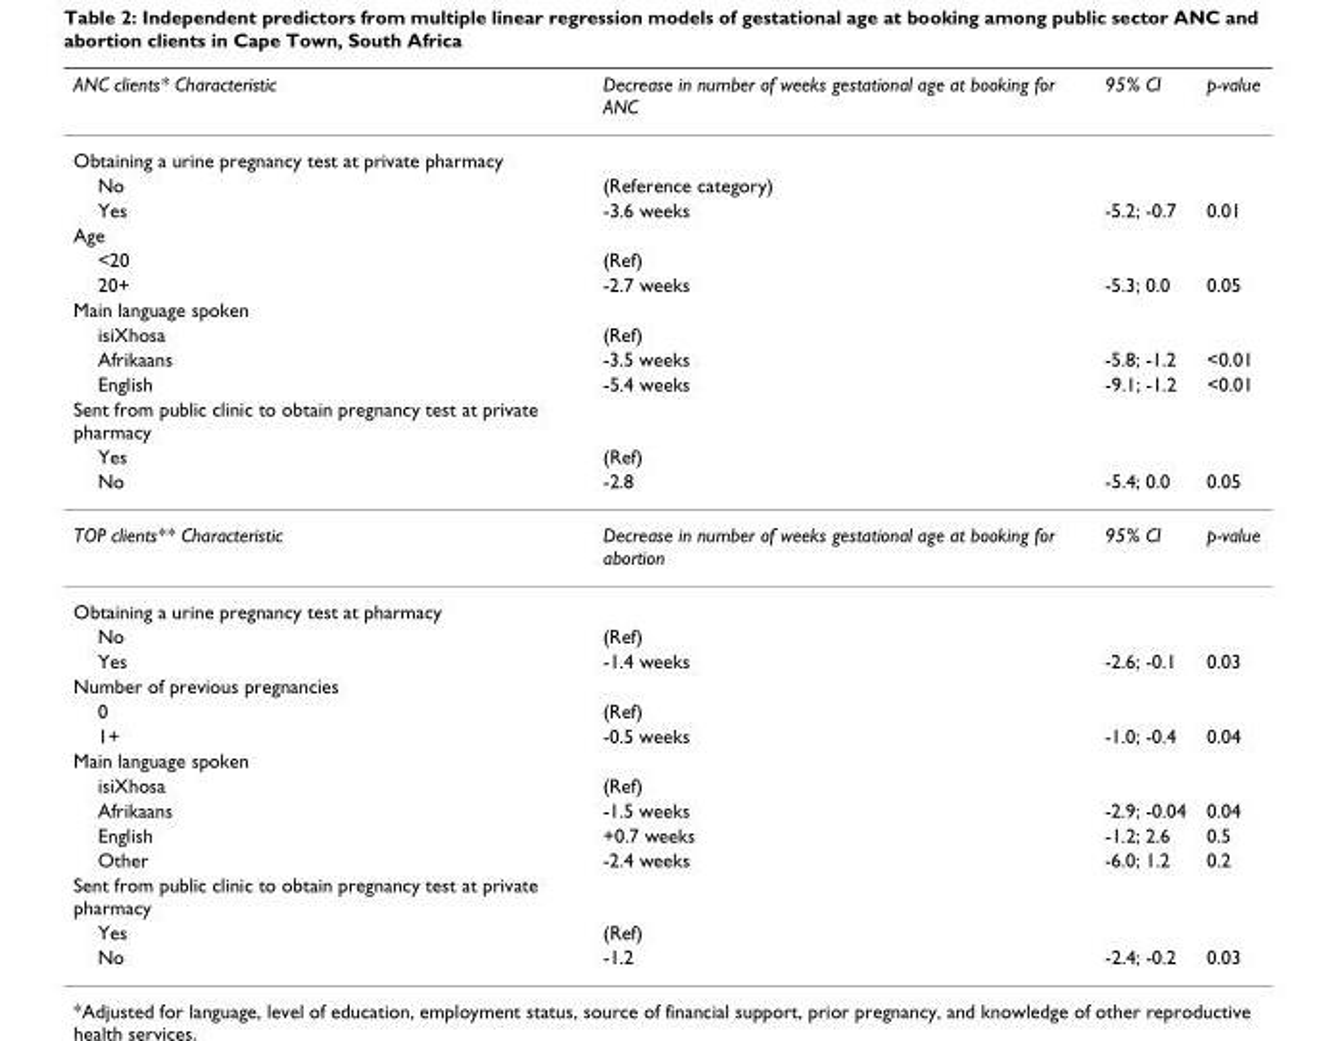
<table><thead><tr><td>ANC clients* Characteristic</td><td>Decrease in number of weeks gestational age at booking for ANC</td><td>95% CI</td><td>p-value</td></tr></thead><tbody><tr><td colspan="4">Obtaining a urine pregnancy test at private pharmacy</td></tr><tr><td>No</td><td>(Reference category)</td><td></td><td></td></tr><tr><td>Yes</td><td>-3.6 weeks</td><td>-5.2; -0.7</td><td>0.01</td></tr><tr><td colspan="4">Age</td></tr><tr><td>&lt;20</td><td>(Ref)</td><td></td><td></td></tr><tr><td>20+</td><td>-2.7 weeks</td><td>-5.3; 0.0</td><td>0.05</td></tr><tr><td colspan="4">Main language spoken</td></tr><tr><td>isiXhosa</td><td>(Ref)</td><td></td><td></td></tr><tr><td>Afrikaans</td><td>-3.5 weeks</td><td>-5.8; -1.2</td><td>&lt;0.01</td></tr><tr><td>English</td><td>-5.4 weeks</td><td>-9.1; -1.2</td><td>&lt;0.01</td></tr><tr><td colspan="4">Sent from public clinic to obtain pregnancy test at private pharmacy</td></tr><tr><td>Yes</td><td>(Ref)</td><td></td><td></td></tr><tr><td>No</td><td>-2.8</td><td>-5.4; 0.0</td><td>0.05</td></tr><tr><td>TOP clients** Characteristic</td><td>Decrease in number of weeks gestational age at booking for abortion</td><td>95% CI</td><td>p-value</td></tr><tr><td colspan="4">Obtaining a urine pregnancy test at pharmacy</td></tr><tr><td>No</td><td>(Ref)</td><td></td><td></td></tr><tr><td>Yes</td><td>-1.4 weeks</td><td>-2.6; -0.1</td><td>0.03</td></tr><tr><td colspan="4">Number of previous pregnancies</td></tr><tr><td>0</td><td>(Ref)</td><td></td><td></td></tr><tr><td>1+</td><td>-0.5 weeks</td><td>-1.0; -0.4</td><td>0.04</td></tr><tr><td colspan="4">Main language spoken</td></tr><tr><td>isiXhosa</td><td>(Ref)</td><td></td><td></td></tr><tr><td>Afrikaans</td><td>-1.5 weeks</td><td>-2.9; -0.04</td><td>0.04</td></tr><tr><td>English</td><td>+0.7 weeks</td><td>-1.2; 2.6</td><td>0.5</td></tr><tr><td>Other</td><td>-2.4 weeks</td><td>-6.0; 1.2</td><td>0.2</td></tr><tr><td colspan="4">Sent from public clinic to obtain pregnancy test at private pharmacy</td></tr><tr><td>Yes</td><td>(Ref)</td><td></td><td></td></tr><tr><td>No</td><td>-1.2</td><td>-2.4; -0.2</td><td>0.03</td></tr></tbody></table>